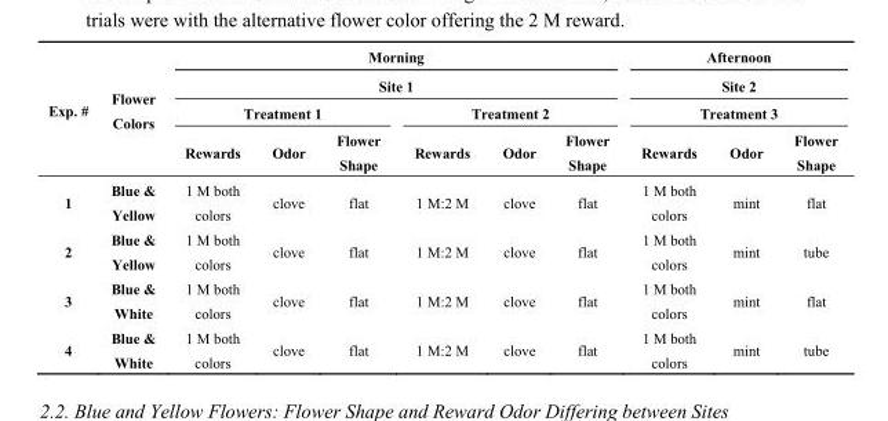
<table><thead><tr><td rowspan="4">Exp. #</td><td rowspan="4">Flower Colors</td><td rowspan="2" colspan="6">Morning Site 1</td><td rowspan="3" colspan="3">Afternoon Site 2 Treatment 3</td></tr><tr></tr><tr><td colspan="3">Treatment 1</td><td colspan="3">Treatment 2</td></tr><tr><td>Rewards</td><td>Odor</td><td>Flower Shape</td><td>Rewards</td><td>Odor</td><td>Flower Shape</td><td>Rewards</td><td>Odor</td><td>Flower Shape</td></tr></thead><tbody><tr><td>1</td><td>Blue &amp; Yellow</td><td>1 M both colors</td><td>clove</td><td>flat</td><td>1 M:2 M</td><td>clove</td><td>flat</td><td>1 M both colors</td><td>mint</td><td>flat</td></tr><tr><td>2</td><td>Blue &amp; Yellow</td><td>1 M both colors</td><td>clove</td><td>flat</td><td>1 M:2 M</td><td>clove</td><td>flat</td><td>1 M both colors</td><td>mint</td><td>tube</td></tr><tr><td>3</td><td>Blue &amp; White</td><td>1 M both colors</td><td>clove</td><td>flat</td><td>1 M:2 M</td><td>clove</td><td>flat</td><td>1 M both colors</td><td>mint</td><td>flat</td></tr><tr><td>4</td><td>Blue &amp; White</td><td>1 M both colors</td><td>clove</td><td>flat</td><td>1 M:2 M</td><td>clove</td><td>flat</td><td>1 M both colors</td><td>mint</td><td>tube</td></tr></tbody></table>